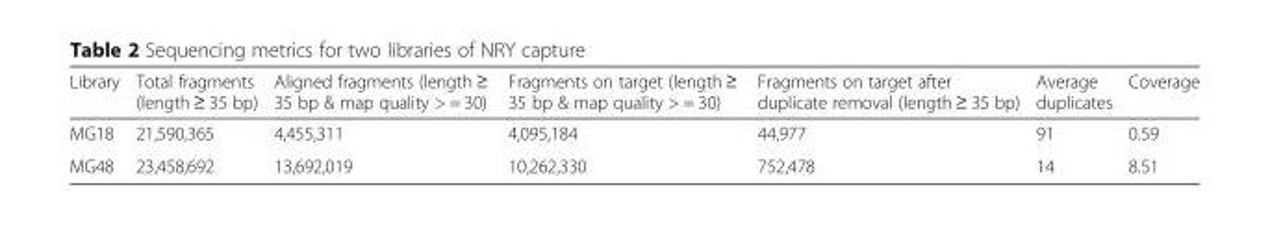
<table><thead><tr><td>Library</td><td>Total fragments (length ≥ 35 bp)</td><td>Aligned fragments (length ≥ 35 bp &amp; map quality &gt; = 30)</td><td>Fragments on target (length ≥ 35 bp &amp; map quality &gt; = 30)</td><td>Fragments on target after duplicate removal (length ≥ 35 bp)</td><td>Average duplicates</td><td>Coverage</td></tr></thead><tbody><tr><td>MG18</td><td>21,590,365</td><td>4,455,311</td><td>4,095,184</td><td>44,977</td><td>91</td><td>0.59</td></tr><tr><td>MG48</td><td>23,458,692</td><td>13,692,019</td><td>10,262,330</td><td>752,478</td><td>14</td><td>8.51</td></tr></tbody></table>